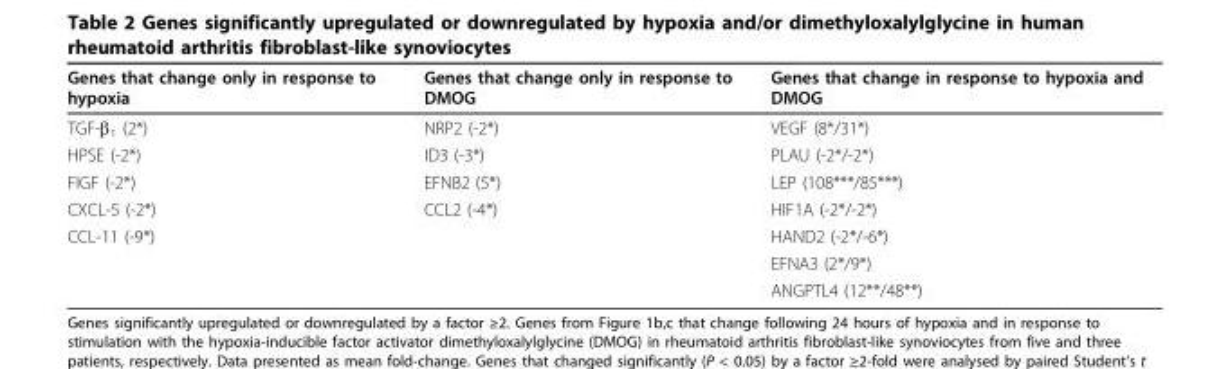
<table><thead><tr><td>Genes that change only in response to hypoxia</td><td>Genes that change only in response to DMOG</td><td>Genes that change in response to hypoxia and DMOG</td></tr></thead><tbody><tr><td>TGF-β<sub>1</sub> (2*)</td><td>NRP2 (-2*)</td><td>VEGF (8*/31*)</td></tr><tr><td>HPSE (-2*)</td><td>ID3 (-3*)</td><td>PLAU (-2*/-2*)</td></tr><tr><td>FIGF (-2*)</td><td>EFNB2 (5*)</td><td>LEP (108***/85***)</td></tr><tr><td>CXCL-5 (-2*)</td><td>CCL2 (-4*)</td><td>HIF1A (-2*/-2*)</td></tr><tr><td rowspan="3">CCL-11 (-9*)</td><td></td><td>HAND2 (-2*/-6*)</td></tr><tr><td></td><td>EFNA3 (2*/9*)</td></tr><tr><td></td><td>ANGPTL4 (12**/48**)</td></tr></tbody></table>